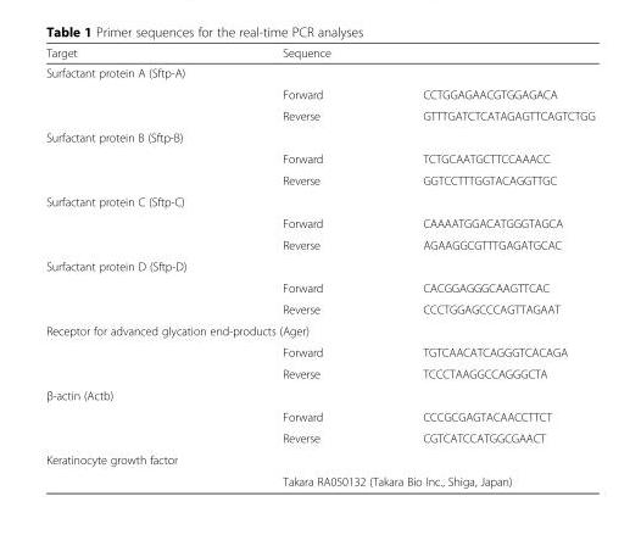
<table><thead><tr><td rowspan="3">Target Surfactant protein A (Sftp-A)</td><td rowspan="2" colspan="2">Sequence</td></tr><tr></tr><tr><td>Forward</td><td>CCTGGAGAACGTGGAGACA</td></tr></thead><tbody><tr><td></td><td>Reverse</td><td>GTTTGATCTCATAGAGTTCAGTCTGG</td></tr><tr><td colspan="3">Surfactant protein B (Sftp-B)</td></tr><tr><td></td><td>Forward</td><td>TCTGCAATGCTTCCAAACC</td></tr><tr><td></td><td>Reverse</td><td>GGTCCTTTGGTACAGGTTGC</td></tr><tr><td colspan="3">Surfactant protein C (Sftp-C)</td></tr><tr><td></td><td>Forward</td><td>CAAAATGGACATGGGTAGCA</td></tr><tr><td></td><td>Reverse</td><td>AGAAGGCGTTTGAGATGCAC</td></tr><tr><td colspan="3">Surfactant protein D (Sftp-D)</td></tr><tr><td></td><td>Forward</td><td>CACGGAGGGCAAGTTCAC</td></tr><tr><td></td><td>Reverse</td><td>CCCTGGAGCCCAGTTAGAAT</td></tr><tr><td colspan="3">Receptor for advanced glycation end-products (Ager)</td></tr><tr><td></td><td>Forward</td><td>TGTCAACATCAGGGTCACAGA</td></tr><tr><td></td><td>Reverse</td><td>TCCCTAAGGCCAGGGCTA</td></tr><tr><td colspan="3">β-actin (Actb)</td></tr><tr><td></td><td>Forward</td><td>CCCGCGAGTACAACCTTCT</td></tr><tr><td></td><td>Reverse</td><td>CGTCATCCATGGCGAACT</td></tr><tr><td colspan="3">Keratinocyte growth factor</td></tr><tr><td></td><td colspan="2">Takara RA050132 (Takara Bio Inc., Shiga, Japan)</td></tr></tbody></table>